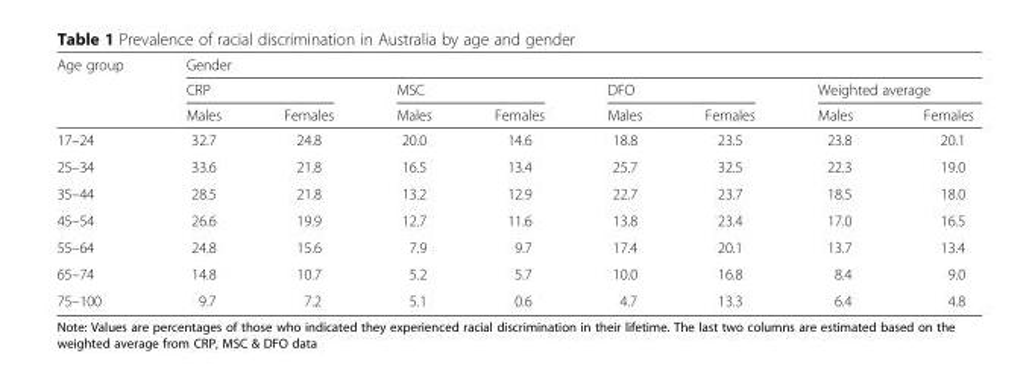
<table><thead><tr><td rowspan="3">Age group</td><td colspan="8">Gender</td></tr><tr><td colspan="2">CRP</td><td colspan="2">MSC</td><td colspan="2">DFO</td><td colspan="2">Weighted average</td></tr><tr><td>Males</td><td>Females</td><td>Males</td><td>Females</td><td>Males</td><td>Females</td><td>Males</td><td>Females</td></tr></thead><tbody><tr><td>17–24</td><td>32.7</td><td>24.8</td><td>20.0</td><td>14.6</td><td>18.8</td><td>23.5</td><td>23.8</td><td>20.1</td></tr><tr><td>25–34</td><td>33.6</td><td>21.8</td><td>16.5</td><td>13.4</td><td>25.7</td><td>32.5</td><td>22.3</td><td>19.0</td></tr><tr><td>35–44</td><td>28.5</td><td>21.8</td><td>13.2</td><td>12.9</td><td>22.7</td><td>23.7</td><td>18.5</td><td>18.0</td></tr><tr><td>45–54</td><td>26.6</td><td>19.9</td><td>12.7</td><td>11.6</td><td>13.8</td><td>23.4</td><td>17.0</td><td>16.5</td></tr><tr><td>55–64</td><td>24.8</td><td>15.6</td><td>7.9</td><td>9.7</td><td>17.4</td><td>20.1</td><td>13.7</td><td>13.4</td></tr><tr><td>65–74</td><td>14.8</td><td>10.7</td><td>5.2</td><td>5.7</td><td>10.0</td><td>16.8</td><td>8.4</td><td>9.0</td></tr><tr><td>75–100</td><td>9.7</td><td>7.2</td><td>5.1</td><td>0.6</td><td>4.7</td><td>13.3</td><td>6.4</td><td>4.8</td></tr></tbody></table>